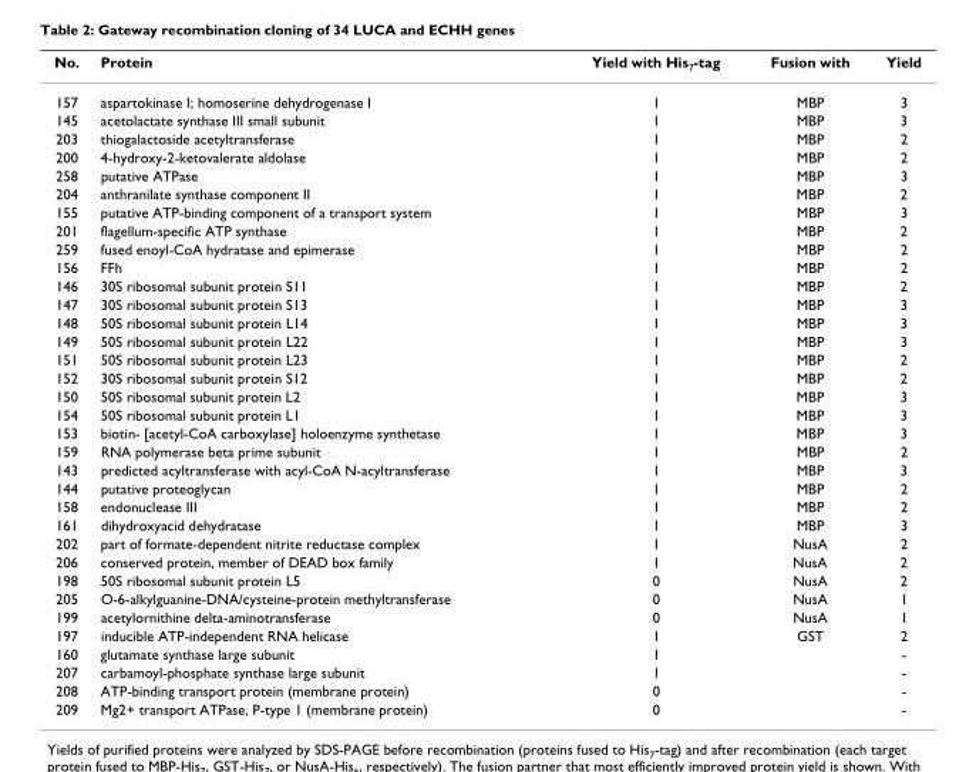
<table><thead><tr><td>No.</td><td>Protein</td><td>Yield with His<sub>7</sub>-tag</td><td>Fusion with</td><td>Yield</td></tr></thead><tbody><tr><td>157</td><td>aspartokinase I; homoserine dehydrogenase I</td><td>1</td><td>MBP</td><td>3</td></tr><tr><td>145</td><td>acetolactate synthase III small subunit</td><td>1</td><td>MBP</td><td>3</td></tr><tr><td>203</td><td>thiogalactoside acetyltransferase</td><td>1</td><td>MBP</td><td>2</td></tr><tr><td>200</td><td>4-hydroxy-2-ketovalerate aldolase</td><td>1</td><td>MBP</td><td>2</td></tr><tr><td>258</td><td>putative ATPase</td><td>1</td><td>MBP</td><td>3</td></tr><tr><td>204</td><td>anthranilate synthase component II</td><td>1</td><td>MBP</td><td>2</td></tr><tr><td>155</td><td>putative ATP-binding component of a transport system</td><td>1</td><td>MBP</td><td>3</td></tr><tr><td>201</td><td>flagellum-specific ATP synthase</td><td>1</td><td>MBP</td><td>2</td></tr><tr><td>259</td><td>fused enoyl-CoA hydratase and epimerase</td><td>1</td><td>MBP</td><td>2</td></tr><tr><td>156</td><td>FFh</td><td>1</td><td>MBP</td><td>2</td></tr><tr><td>146</td><td>30S ribosomal subunit protein S11</td><td>1</td><td>MBP</td><td>2</td></tr><tr><td>147</td><td>30S ribosomal subunit protein S13</td><td>1</td><td>MBP</td><td>3</td></tr><tr><td>148</td><td>50S ribosomal subunit protein L14</td><td>1</td><td>MBP</td><td>3</td></tr><tr><td>149</td><td>50S ribosomal subunit protein L22</td><td>1</td><td>MBP</td><td>3</td></tr><tr><td>151</td><td>50S ribosomal subunit protein L23</td><td>1</td><td>MBP</td><td>2</td></tr><tr><td>152</td><td>30S ribosomal subunit protein S12</td><td>1</td><td>MBP</td><td>2</td></tr><tr><td>150</td><td>50S ribosomal subunit protein L2</td><td>1</td><td>MBP</td><td>3</td></tr><tr><td>154</td><td>50S ribosomal subunit protein L1</td><td>1</td><td>MBP</td><td>3</td></tr><tr><td>153</td><td>biotin- [acetyl-CoA carboxylase] holoenzyme synthetase</td><td>1</td><td>MBP</td><td>3</td></tr><tr><td>159</td><td>RNA polymerase beta prime subunit</td><td>1</td><td>MBP</td><td>2</td></tr><tr><td>143</td><td>predicted acyltransferase with acyl-CoA N-acyltransferase</td><td>1</td><td>MBP</td><td>3</td></tr><tr><td>144</td><td>putative proteoglycan</td><td>1</td><td>MBP</td><td>2</td></tr><tr><td>158</td><td>endonuclease III</td><td>1</td><td>MBP</td><td>2</td></tr><tr><td>161</td><td>dihydroxyacid dehydratase</td><td>1</td><td>MBP</td><td>3</td></tr><tr><td>202</td><td>part of formate-dependent nitrite reductase complex</td><td>1</td><td>NusA</td><td>2</td></tr><tr><td>206</td><td>conserved protein, member of DEAD box family</td><td>1</td><td>NusA</td><td>2</td></tr><tr><td>198</td><td>50S ribosomal subunit protein L5</td><td>0</td><td>NusA</td><td>2</td></tr><tr><td>205</td><td>O-6-alkylguanine-DNA/cysteine-protein methyltransferase</td><td>0</td><td>NusA</td><td>1</td></tr><tr><td>199</td><td>acetylornithine delta-aminotransferase</td><td>0</td><td>NusA</td><td>1</td></tr><tr><td>197</td><td>inducible ATP-independent RNA helicase</td><td>1</td><td>GST</td><td>2</td></tr><tr><td>160</td><td>glutamate synthase large subunit</td><td>1</td><td></td><td>-</td></tr><tr><td>207</td><td>carbamoyl-phosphate synthase large subunit</td><td>1</td><td></td><td>-</td></tr><tr><td>208</td><td>ATP-binding transport protein (membrane protein)</td><td>0</td><td></td><td>-</td></tr><tr><td>209</td><td>Mg2+ transport ATPase, P-type 1 (membrane protein)</td><td>0</td><td></td><td>-</td></tr></tbody></table>